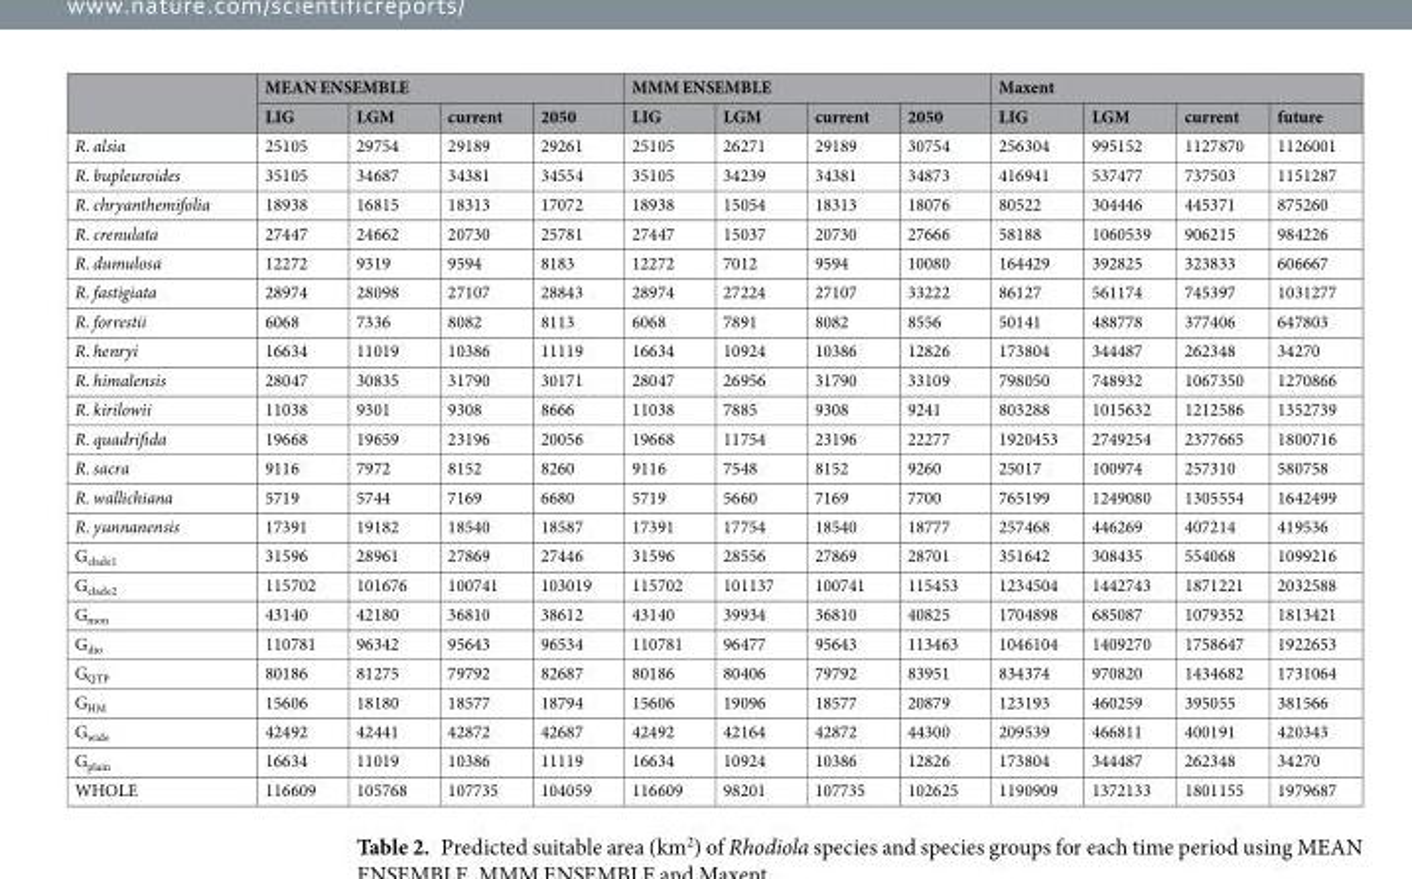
<table><thead><tr><td rowspan="2"></td><td colspan="4">MEAN ENSEMBLE</td><td colspan="4">MMM ENSEMBLE</td><td colspan="4">Maxent</td></tr><tr><td>LIG</td><td>LGM</td><td>current</td><td>2050</td><td>LIG</td><td>LGM</td><td>current</td><td>2050</td><td>LIG</td><td>LGM</td><td>current</td><td>future</td></tr></thead><tbody><tr><td>R. alsia</td><td>25105</td><td>29754</td><td>29189</td><td>29261</td><td>25105</td><td>26271</td><td>29189</td><td>30754</td><td>256304</td><td>995152</td><td>1127870</td><td>1126001</td></tr><tr><td>R. bupleuroides</td><td>35105</td><td>34687</td><td>34381</td><td>34554</td><td>35105</td><td>34239</td><td>34381</td><td>34873</td><td>416941</td><td>537477</td><td>737503</td><td>1151287</td></tr><tr><td>R. chryanthemifolia</td><td>18938</td><td>16815</td><td>18313</td><td>17072</td><td>18938</td><td>15054</td><td>18313</td><td>18076</td><td>80522</td><td>304446</td><td>445371</td><td>875260</td></tr><tr><td>R. crenulata</td><td>27447</td><td>24662</td><td>20730</td><td>25781</td><td>27447</td><td>15037</td><td>20730</td><td>27666</td><td>58188</td><td>1060539</td><td>906215</td><td>984226</td></tr><tr><td>R. dumulosa</td><td>12272</td><td>9319</td><td>9594</td><td>8183</td><td>12272</td><td>7012</td><td>9594</td><td>10080</td><td>164429</td><td>392825</td><td>323833</td><td>606667</td></tr><tr><td>R. fastigiata</td><td>28974</td><td>28098</td><td>27107</td><td>28843</td><td>28974</td><td>27224</td><td>27107</td><td>33222</td><td>86127</td><td>561174</td><td>745397</td><td>1031277</td></tr><tr><td>R. forrestii</td><td>6068</td><td>7336</td><td>8082</td><td>8113</td><td>6068</td><td>7891</td><td>8082</td><td>8556</td><td>50141</td><td>488778</td><td>377406</td><td>647803</td></tr><tr><td>R. henryi</td><td>16634</td><td>11019</td><td>10386</td><td>11119</td><td>16634</td><td>10924</td><td>10386</td><td>12826</td><td>173804</td><td>344487</td><td>262348</td><td>34270</td></tr><tr><td>R. himalensis</td><td>28047</td><td>30835</td><td>31790</td><td>30171</td><td>28047</td><td>26956</td><td>31790</td><td>33109</td><td>798050</td><td>748932</td><td>1067350</td><td>1270866</td></tr><tr><td>R. kirilowii</td><td>11038</td><td>9301</td><td>9308</td><td>8666</td><td>11038</td><td>7885</td><td>9308</td><td>9241</td><td>803288</td><td>1015632</td><td>1212586</td><td>1352739</td></tr><tr><td>R. quadrifida</td><td>19668</td><td>19659</td><td>23196</td><td>20056</td><td>19668</td><td>11754</td><td>23196</td><td>22277</td><td>1920453</td><td>2749254</td><td>2377665</td><td>1800716</td></tr><tr><td>R. sacra</td><td>9116</td><td>7972</td><td>8152</td><td>8260</td><td>9116</td><td>7548</td><td>8152</td><td>9260</td><td>25017</td><td>100974</td><td>257310</td><td>580758</td></tr><tr><td>R. wallichiana</td><td>5719</td><td>5744</td><td>7169</td><td>6680</td><td>5719</td><td>5660</td><td>7169</td><td>7700</td><td>765199</td><td>1249080</td><td>1305554</td><td>1642499</td></tr><tr><td>R. yunnanensis</td><td>17391</td><td>19182</td><td>18540</td><td>18587</td><td>17391</td><td>17754</td><td>18540</td><td>18777</td><td>257468</td><td>446269</td><td>407214</td><td>419536</td></tr><tr><td>G<sub>clade1</sub></td><td>31596</td><td>28961</td><td>27869</td><td>27446</td><td>31596</td><td>28556</td><td>27869</td><td>28701</td><td>351642</td><td>308435</td><td>554068</td><td>1099216</td></tr><tr><td>G<sub>clade2</sub></td><td>115702</td><td>101676</td><td>100741</td><td>103019</td><td>115702</td><td>101137</td><td>100741</td><td>115453</td><td>1234504</td><td>1442743</td><td>1871221</td><td>2032588</td></tr><tr><td>G<sub>mon</sub></td><td>43140</td><td>42180</td><td>36810</td><td>38612</td><td>43140</td><td>39934</td><td>36810</td><td>40825</td><td>1704898</td><td>685087</td><td>1079352</td><td>1813421</td></tr><tr><td>G<sub>dio</sub></td><td>110781</td><td>96342</td><td>95643</td><td>96534</td><td>110781</td><td>96477</td><td>95643</td><td>113463</td><td>1046104</td><td>1409270</td><td>1758647</td><td>1922653</td></tr><tr><td>G<sub>QTP</sub></td><td>80186</td><td>81275</td><td>79792</td><td>82687</td><td>80186</td><td>80406</td><td>79792</td><td>83951</td><td>834374</td><td>970820</td><td>1434682</td><td>1731064</td></tr><tr><td>G<sub>HM</sub></td><td>15606</td><td>18180</td><td>18577</td><td>18794</td><td>15606</td><td>19096</td><td>18577</td><td>20879</td><td>123193</td><td>460259</td><td>395055</td><td>381566</td></tr><tr><td>G<sub>wide</sub></td><td>42492</td><td>42441</td><td>42872</td><td>42687</td><td>42492</td><td>42164</td><td>42872</td><td>44300</td><td>209539</td><td>466811</td><td>400191</td><td>420343</td></tr><tr><td>G<sub>plain</sub></td><td>16634</td><td>11019</td><td>10386</td><td>11119</td><td>16634</td><td>10924</td><td>10386</td><td>12826</td><td>173804</td><td>344487</td><td>262348</td><td>34270</td></tr><tr><td>WHOLE</td><td>116609</td><td>105768</td><td>107735</td><td>104059</td><td>116609</td><td>98201</td><td>107735</td><td>102625</td><td>1190909</td><td>1372133</td><td>1801155</td><td>1979687</td></tr></tbody></table>